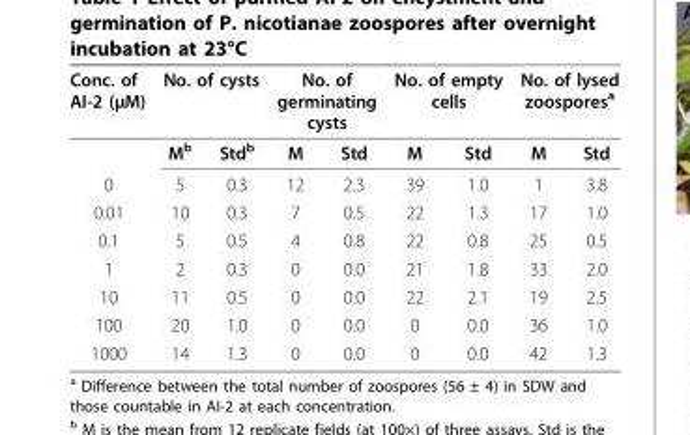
<table><thead><tr><td rowspan="2">Conc. of AI-2 (μM)</td><td colspan="2">No. of cysts</td><td colspan="2">No. of germinating cysts</td><td colspan="2">No. of empty cells</td><td colspan="2">No. of lysed zoospores<sup>a</sup></td></tr><tr><td>M<sup>b</sup></td><td>Std<sup>b</sup></td><td>M</td><td>Std</td><td>M</td><td>Std</td><td>M</td><td>Std</td></tr></thead><tbody><tr><td>0</td><td>5</td><td>0.3</td><td>12</td><td>2.3</td><td>39</td><td>1.0</td><td>1</td><td>3.8</td></tr><tr><td>0.01</td><td>10</td><td>0.3</td><td>7</td><td>0.5</td><td>22</td><td>1.3</td><td>17</td><td>1.0</td></tr><tr><td>0.1</td><td>5</td><td>0.5</td><td>4</td><td>0.8</td><td>22</td><td>0.8</td><td>25</td><td>0.5</td></tr><tr><td>1</td><td>2</td><td>0.3</td><td>0</td><td>0.0</td><td>21</td><td>1.8</td><td>33</td><td>2.0</td></tr><tr><td>10</td><td>11</td><td>0.5</td><td>0</td><td>0.0</td><td>22</td><td>2.1</td><td>19</td><td>2.5</td></tr><tr><td>100</td><td>20</td><td>1.0</td><td>0</td><td>0.0</td><td>0</td><td>0.0</td><td>36</td><td>1.0</td></tr><tr><td>1000</td><td>14</td><td>1.3</td><td>0</td><td>0.0</td><td>0</td><td>0.0</td><td>42</td><td>1.3</td></tr></tbody></table>